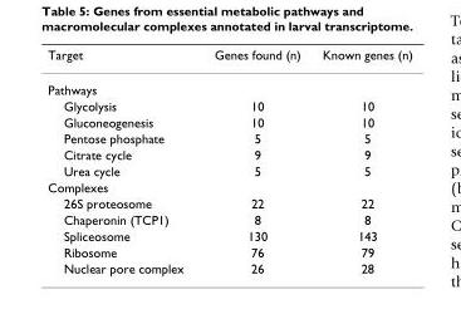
<table><thead><tr><td>Target</td><td>Genes found (n)</td><td>Known genes (n)</td></tr></thead><tbody><tr><td colspan="3">Pathways</td></tr><tr><td>Glycolysis</td><td>10</td><td>10</td></tr><tr><td>Gluconeogenesis</td><td>10</td><td>10</td></tr><tr><td>Pentose phosphate</td><td>5</td><td>5</td></tr><tr><td>Citrate cycle</td><td>9</td><td>9</td></tr><tr><td>Urea cycle</td><td>5</td><td>5</td></tr><tr><td colspan="3">Complexes</td></tr><tr><td>26S proteosome</td><td>22</td><td>22</td></tr><tr><td>Chaperonin (TCP1)</td><td>8</td><td>8</td></tr><tr><td>Spliceosome</td><td>130</td><td>143</td></tr><tr><td>Ribosome</td><td>76</td><td>79</td></tr><tr><td>Nuclear pore complex</td><td>26</td><td>28</td></tr></tbody></table>